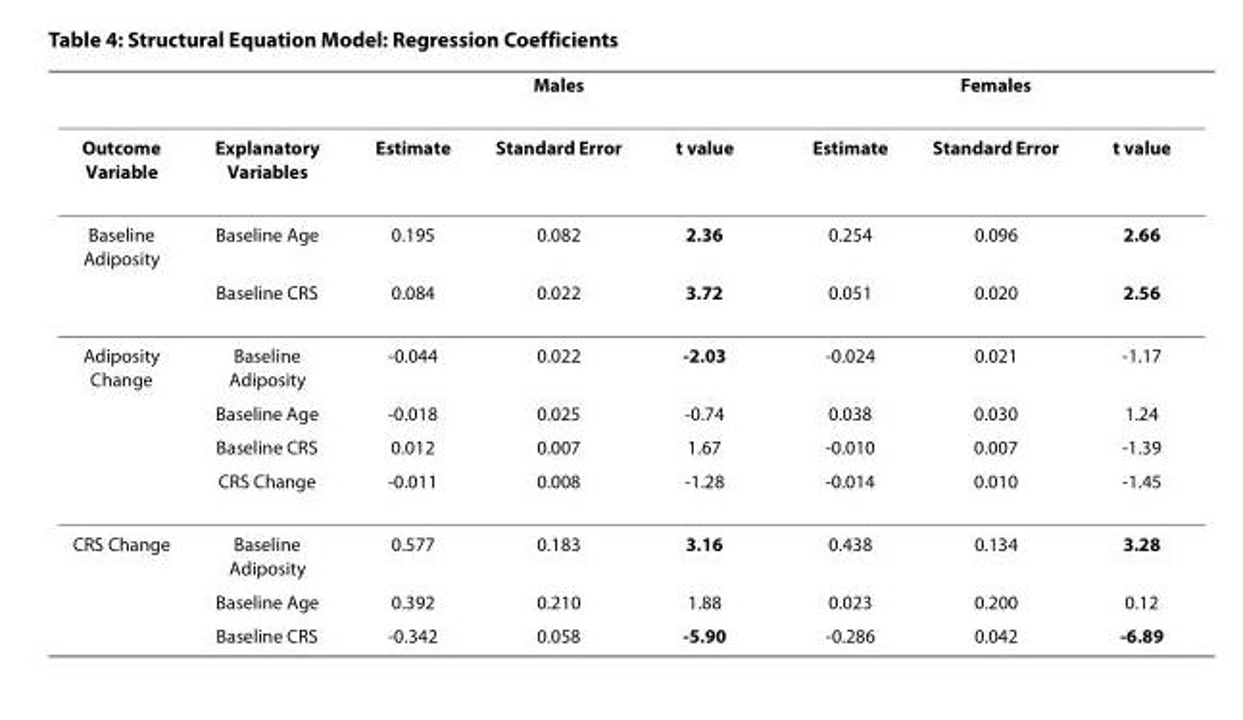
<table><thead><tr><td rowspan="2">Outcome Variable</td><td rowspan="2">Explanatory Variables</td><td colspan="3">Males</td><td colspan="3">Females</td></tr><tr><td>Estimate</td><td>Standard Error</td><td>t value</td><td>Estimate</td><td>Standard Error</td><td>t value</td></tr></thead><tbody><tr><td rowspan="2">Baseline Adiposity</td><td>Baseline Age</td><td>0.195</td><td>0.082</td><td>2.36</td><td>0.254</td><td>0.096</td><td>2.66</td></tr><tr><td>Baseline CRS</td><td>0.084</td><td>0.022</td><td>3.72</td><td>0.051</td><td>0.020</td><td>2.56</td></tr><tr><td rowspan="4">Adiposity Change</td><td>Baseline Adiposity</td><td>-0.044</td><td>0.022</td><td>-2.03</td><td>-0.024</td><td>0.021</td><td>-1.17</td></tr><tr><td>Baseline Age</td><td>-0.018</td><td>0.025</td><td>-0.74</td><td>0.038</td><td>0.030</td><td>1.24</td></tr><tr><td>Baseline CRS</td><td>0.012</td><td>0.007</td><td>1.67</td><td>-0.010</td><td>0.007</td><td>-1.39</td></tr><tr><td>CRS Change</td><td>-0.011</td><td>0.008</td><td>-1.28</td><td>-0.014</td><td>0.010</td><td>-1.45</td></tr><tr><td rowspan="3">CRS Change</td><td>Baseline Adiposity</td><td>0.577</td><td>0.183</td><td>3.16</td><td>0.438</td><td>0.134</td><td>3.28</td></tr><tr><td>Baseline Age</td><td>0.392</td><td>0.210</td><td>1.88</td><td>0.023</td><td>0.200</td><td>0.12</td></tr><tr><td>Baseline CRS</td><td>-0.342</td><td>0.058</td><td>-5.90</td><td>-0.286</td><td>0.042</td><td>-6.89</td></tr></tbody></table>